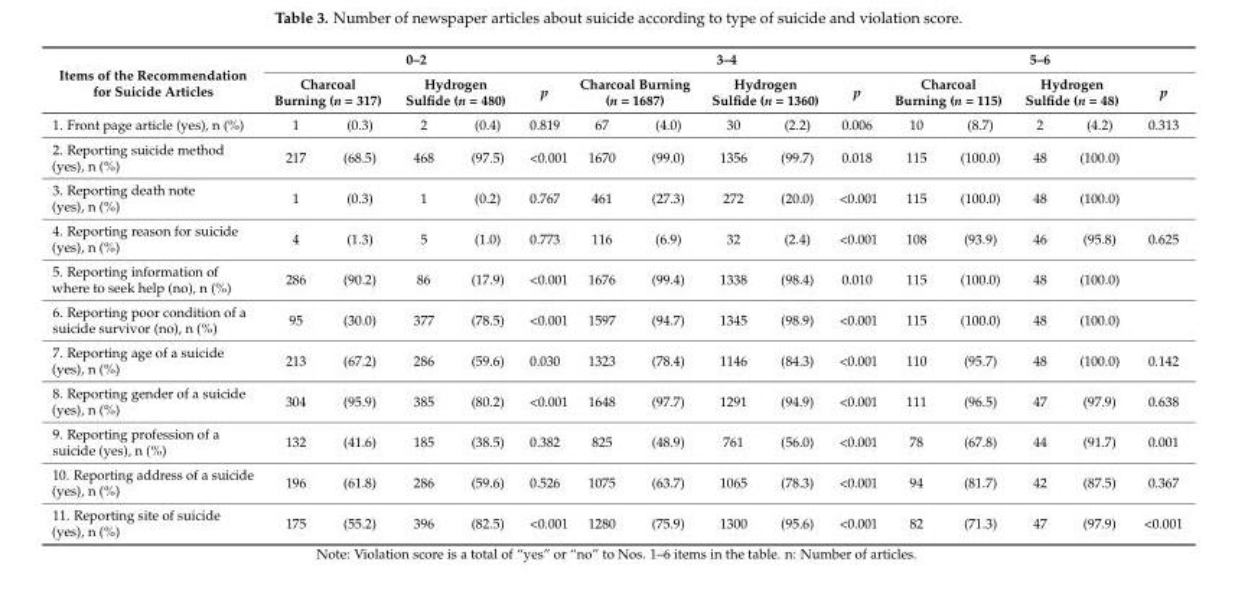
<table><thead><tr><td rowspan="3">Items of the Recommendation for Suicide Articles 1. Front page article (yes), n (%)</td><td colspan="5">0–2</td><td colspan="5">3–4</td><td colspan="5">5–6</td></tr><tr><td colspan="2">Charcoal Burning (n = 317)</td><td colspan="2">Hydrogen Sulfide (n = 480)</td><td rowspan="2">p 0.819</td><td colspan="2">Charcoal Burning (n = 1687)</td><td colspan="2">Hydrogen Sulfide (n = 1360)</td><td rowspan="2">p 0.006</td><td colspan="2">Charcoal Burning (n = 115)</td><td colspan="2">Hydrogen Sulfide (n = 48)</td><td rowspan="2">p 0.313</td></tr><tr><td>1</td><td>(0.3)</td><td>2</td><td>(0.4)</td><td>67</td><td>(4.0)</td><td>30</td><td>(2.2)</td><td>10</td><td>(8.7)</td><td>2</td><td>(4.2)</td></tr></thead><tbody><tr><td>2. Reporting suicide method (yes), n (%)</td><td>217</td><td>(68.5)</td><td>468</td><td>(97.5)</td><td>&lt;0.001</td><td>1670</td><td>(99.0)</td><td>1356</td><td>(99.7)</td><td>0.018</td><td>115</td><td>(100.0)</td><td>48</td><td>(100.0)</td><td></td></tr><tr><td>3. Reporting death note (yes), n (%)</td><td>1</td><td>(0.3)</td><td>1</td><td>(0.2)</td><td>0.767</td><td>461</td><td>(27.3)</td><td>272</td><td>(20.0)</td><td>&lt;0.001</td><td>115</td><td>(100.0)</td><td>48</td><td>(100.0)</td><td></td></tr><tr><td>4. Reporting reason for suicide (yes), n (%)</td><td>4</td><td>(1.3)</td><td>5</td><td>(1.0)</td><td>0.773</td><td>116</td><td>(6.9)</td><td>32</td><td>(2.4)</td><td>&lt;0.001</td><td>108</td><td>(93.9)</td><td>46</td><td>(95.8)</td><td>0.625</td></tr><tr><td>5. Reporting information of where to seek help (no), n (%)</td><td>286</td><td>(90.2)</td><td>86</td><td>(17.9)</td><td>&lt;0.001</td><td>1676</td><td>(99.4)</td><td>1338</td><td>(98.4)</td><td>0.010</td><td>115</td><td>(100.0)</td><td>48</td><td>(100.0)</td><td></td></tr><tr><td>6. Reporting poor condition of a suicide survivor (no), n (%)</td><td>95</td><td>(30.0)</td><td>377</td><td>(78.5)</td><td>&lt;0.001</td><td>1597</td><td>(94.7)</td><td>1345</td><td>(98.9)</td><td>&lt;0.001</td><td>115</td><td>(100.0)</td><td>48</td><td>(100.0)</td><td></td></tr><tr><td>7. Reporting age of a suicide (yes), n (%)</td><td>213</td><td>(67.2)</td><td>286</td><td>(59.6)</td><td>0.030</td><td>1323</td><td>(78.4)</td><td>1146</td><td>(84.3)</td><td>&lt;0.001</td><td>110</td><td>(95.7)</td><td>48</td><td>(100.0)</td><td>0.142</td></tr><tr><td>8. Reporting gender of a suicide (yes), n (%)</td><td>304</td><td>(95.9)</td><td>385</td><td>(80.2)</td><td>&lt;0.001</td><td>1648</td><td>(97.7)</td><td>1291</td><td>(94.9)</td><td>&lt;0.001</td><td>111</td><td>(96.5)</td><td>47</td><td>(97.9)</td><td>0.638</td></tr><tr><td>9. Reporting profession of a suicide (yes), n (%)</td><td>132</td><td>(41.6)</td><td>185</td><td>(38.5)</td><td>0.382</td><td>825</td><td>(48.9)</td><td>761</td><td>(56.0)</td><td>&lt;0.001</td><td>78</td><td>(67.8)</td><td>44</td><td>(91.7)</td><td>0.001</td></tr><tr><td>10. Reporting address of a suicide (yes), n (%)</td><td>196</td><td>(61.8)</td><td>286</td><td>(59.6)</td><td>0.526</td><td>1075</td><td>(63.7)</td><td>1065</td><td>(78.3)</td><td>&lt;0.001</td><td>94</td><td>(81.7)</td><td>42</td><td>(87.5)</td><td>0.367</td></tr><tr><td>11. Reporting site of suicide (yes), n (%)</td><td>175</td><td>(55.2)</td><td>396</td><td>(82.5)</td><td>&lt;0.001</td><td>1280</td><td>(75.9)</td><td>1300</td><td>(95.6)</td><td>&lt;0.001</td><td>82</td><td>(71.3)</td><td>47</td><td>(97.9)</td><td>&lt;0.001</td></tr></tbody></table>